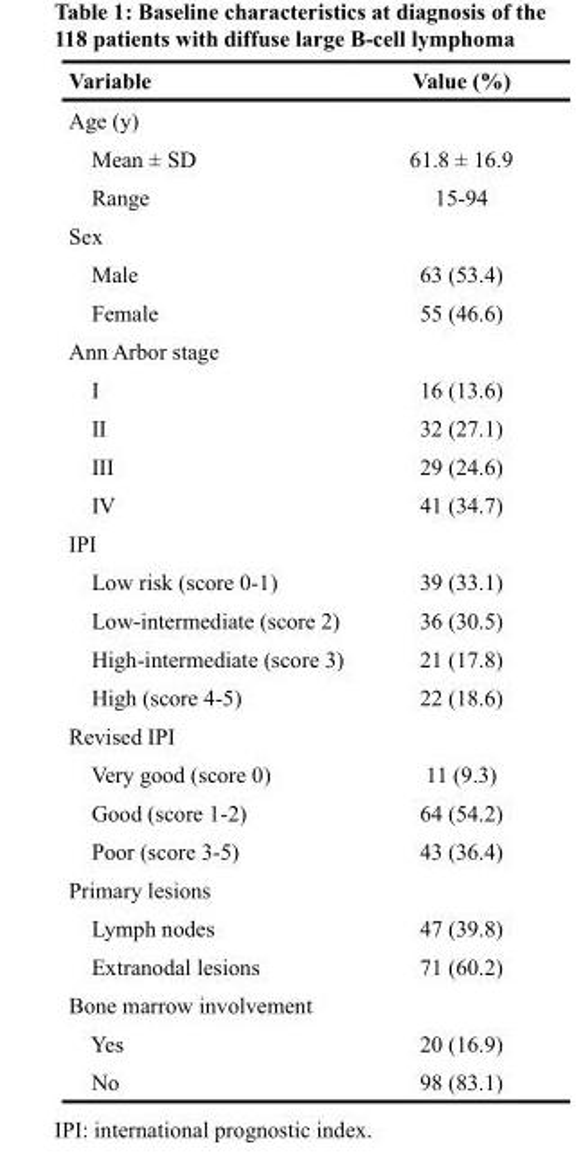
<table><thead><tr><td>Variable</td><td>Value (%)</td></tr></thead><tbody><tr><td colspan="2">Age (y)</td></tr><tr><td>Mean ± SD</td><td>61.8 ± 16.9</td></tr><tr><td>Range</td><td>15-94</td></tr><tr><td colspan="2">Sex</td></tr><tr><td>Male</td><td>63 (53.4)</td></tr><tr><td>Female</td><td>55 (46.6)</td></tr><tr><td colspan="2">Ann Arbor stage</td></tr><tr><td>I</td><td>16 (13.6)</td></tr><tr><td>II</td><td>32 (27.1)</td></tr><tr><td>III</td><td>29 (24.6)</td></tr><tr><td>IV</td><td>41 (34.7)</td></tr><tr><td colspan="2">IPI</td></tr><tr><td>Low risk (score 0-1)</td><td>39 (33.1)</td></tr><tr><td>Low-intermediate (score 2)</td><td>36 (30.5)</td></tr><tr><td>High-intermediate (score 3)</td><td>21 (17.8)</td></tr><tr><td>High (score 4-5)</td><td>22 (18.6)</td></tr><tr><td colspan="2">Revised IPI</td></tr><tr><td>Very good (score 0)</td><td>11 (9.3)</td></tr><tr><td>Good (score 1-2)</td><td>64 (54.2)</td></tr><tr><td>Poor (score 3-5)</td><td>43 (36.4)</td></tr><tr><td colspan="2">Primary lesions</td></tr><tr><td>Lymph nodes</td><td>47 (39.8)</td></tr><tr><td>Extranodal lesions</td><td>71 (60.2)</td></tr><tr><td colspan="2">Bone marrow involvement</td></tr><tr><td>Yes</td><td>20 (16.9)</td></tr><tr><td>No</td><td>98 (83.1)</td></tr></tbody></table>